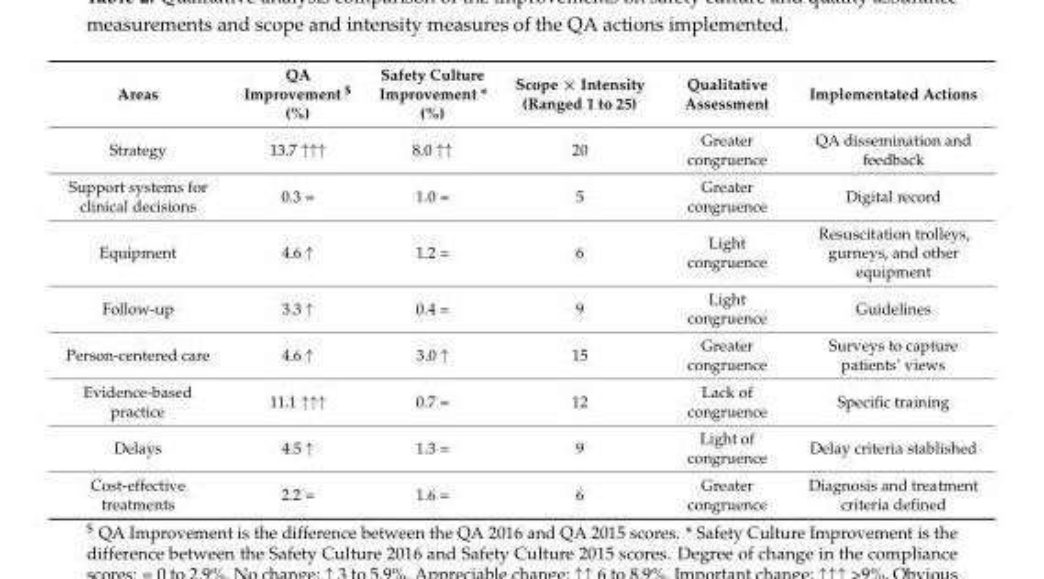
<table><thead><tr><td>Areas</td><td>QA Improvement <sup>$</sup> (%)</td><td>Safety Culture Improvement * (%)</td><td>Scope × Intensity (Ranged 1 to 25)</td><td>Qualitative Assessment</td><td>Implementated Actions</td></tr></thead><tbody><tr><td>Strategy</td><td>13.7 ↑↑↑</td><td>8.0 ↑↑</td><td>20</td><td>Greater congruence</td><td>QA dissemination and feedback</td></tr><tr><td>Support systems for clinical decisions</td><td>0.3 =</td><td>1.0 =</td><td>5</td><td>Greater congruence</td><td>Digital record</td></tr><tr><td>Equipment</td><td>4.6 ↑</td><td>1.2 =</td><td>6</td><td>Light congruence</td><td>Resuscitation trolleys, gurneys, and other equipment</td></tr><tr><td>Follow-up</td><td>3.3 ↑</td><td>0.4 =</td><td>9</td><td>Light congruence</td><td>Guidelines</td></tr><tr><td>Person-centered care</td><td>4.6 ↑</td><td>3.0 ↑</td><td>15</td><td>Greater congruence</td><td>Surveys to capture patients’ views</td></tr><tr><td>Evidence-based practice</td><td>11.1 ↑↑↑</td><td>0.7 =</td><td>12</td><td>Lack of congruence</td><td>Specific training</td></tr><tr><td>Delays</td><td>4.5 ↑</td><td>1.3 =</td><td>9</td><td>Light of congruence</td><td>Delay criteria stablished</td></tr><tr><td>Cost-effective treatments</td><td>2.2 =</td><td>1.6 =</td><td>6</td><td>Greater congruence</td><td>Diagnosis and treatment criteria defined</td></tr></tbody></table>